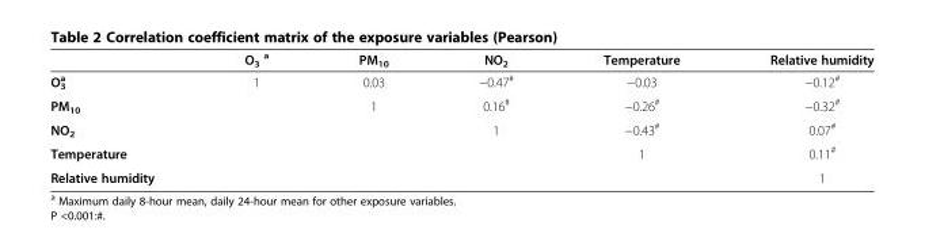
<table><thead><tr><td></td><td>O<sub>3</sub> <sup>a</sup></td><td>PM<sub>10</sub></td><td>NO<sub>2</sub></td><td>Temperature</td><td>Relative humidity</td></tr></thead><tbody><tr><td>O<sub>3</sub> <sup>a</sup></td><td>1</td><td>0.03</td><td>−0.47<sup>#</sup></td><td>−0.03</td><td>−0.12<sup>#</sup></td></tr><tr><td>PM<sub>10</sub></td><td></td><td>1</td><td>0.16<sup>#</sup></td><td>−0.26<sup>#</sup></td><td>−0.32<sup>#</sup></td></tr><tr><td>NO<sub>2</sub></td><td></td><td></td><td>1</td><td>−0.43<sup>#</sup></td><td>0.07<sup>#</sup></td></tr><tr><td>Temperature</td><td></td><td></td><td></td><td>1</td><td>0.11<sup>#</sup></td></tr><tr><td>Relative humidity</td><td></td><td></td><td></td><td></td><td>1</td></tr></tbody></table>